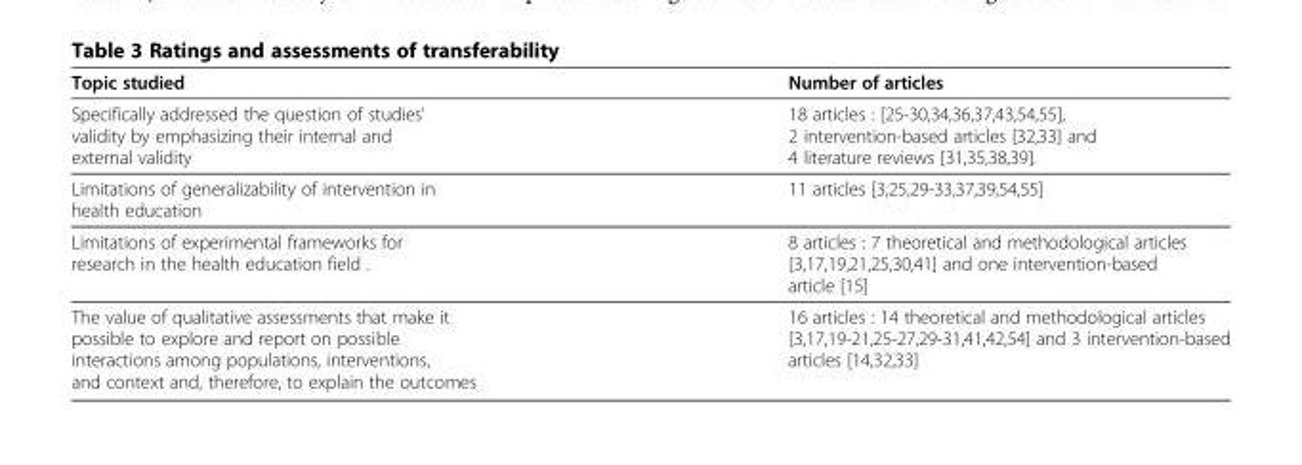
<table><thead><tr><td>Topic studied</td><td>Number of articles</td></tr></thead><tbody><tr><td>Specifically addressed the question of studies’ validity by emphasizing their internal and external validity</td><td>18 articles : [25-30,34,36,37,43,54,55], 2 intervention-based articles [32,33] and 4 literature reviews [31,35,38,39].</td></tr><tr><td>Limitations of generalizability of intervention in health education</td><td>11 articles [3,25,29-33,37,39,54,55]</td></tr><tr><td>Limitations of experimental frameworks for research in the health education field .</td><td>8 articles : 7 theoretical and methodological articles [3,17,19,21,25,30,41] and one intervention-based article [15]</td></tr><tr><td>The value of qualitative assessments that make it possible to explore and report on possible interactions among populations, interventions, and context and, therefore, to explain the outcomes</td><td>16 articles : 14 theoretical and methodological articles [3,17,19-21,25-27,29-31,41,42,54] and 3 intervention-based articles [14,32,33]</td></tr></tbody></table>